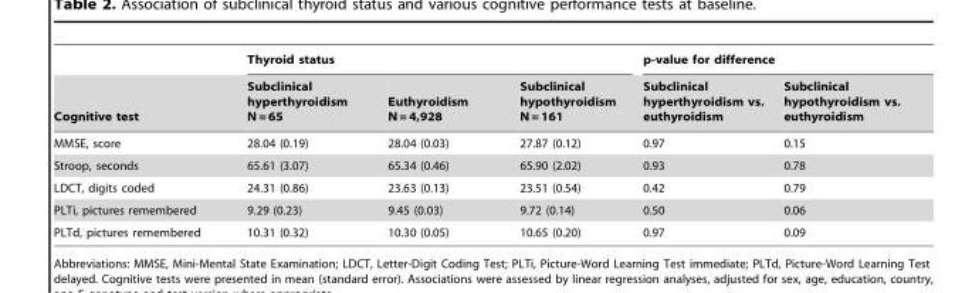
<table><thead><tr><td rowspan="2">Cognitive test</td><td colspan="3">Thyroid status</td><td colspan="2">p-value for difference</td></tr><tr><td>Subclinical hyperthyroidism N = 65</td><td>Euthyroidism N = 4,928</td><td>Subclinical hypothyroidism N = 161</td><td>Subclinical hyperthyroidism vs. euthyroidism</td><td>Subclinical hypothyroidism vs. euthyroidism</td></tr></thead><tbody><tr><td>MMSE, score</td><td>28.04 (0.19)</td><td>28.04 (0.03)</td><td>27.87 (0.12)</td><td>0.97</td><td>0.15</td></tr><tr><td>Stroop, seconds</td><td>65.61 (3.07)</td><td>65.34 (0.46)</td><td>65.90 (2.02)</td><td>0.93</td><td>0.78</td></tr><tr><td>LDCT, digits coded</td><td>24.31 (0.86)</td><td>23.63 (0.13)</td><td>23.51 (0.54)</td><td>0.42</td><td>0.79</td></tr><tr><td>PLTi, pictures remembered</td><td>9.29 (0.23)</td><td>9.45 (0.03)</td><td>9.72 (0.14)</td><td>0.50</td><td>0.06</td></tr><tr><td>PLTd, pictures remembered</td><td>10.31 (0.32)</td><td>10.30 (0.05)</td><td>10.65 (0.20)</td><td>0.97</td><td>0.09</td></tr></tbody></table>